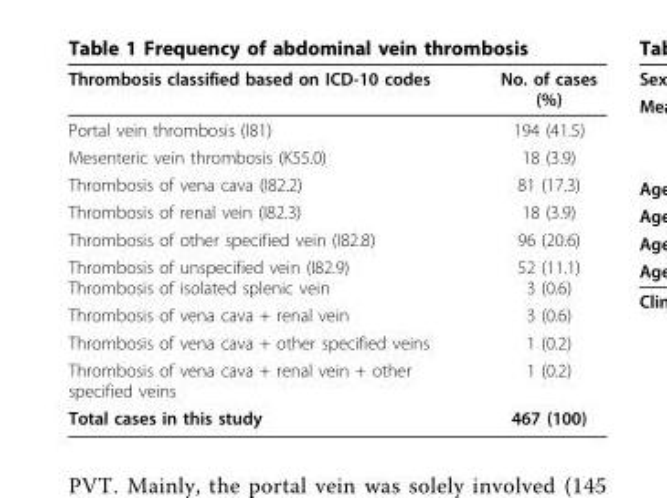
<table><thead><tr><td>Thrombosis classified based on ICD-10 codes</td><td>No. of cases (%)</td></tr></thead><tbody><tr><td>Portal vein thrombosis (I81)</td><td>194 (41.5)</td></tr><tr><td>Mesenteric vein thrombosis (K55.0)</td><td>18 (3.9)</td></tr><tr><td>Thrombosis of vena cava (I82.2)</td><td>81 (17.3)</td></tr><tr><td>Thrombosis of renal vein (I82.3)</td><td>18 (3.9)</td></tr><tr><td>Thrombosis of other specified vein (I82.8)</td><td>96 (20.6)</td></tr><tr><td>Thrombosis of unspecified vein (I82.9) Thrombosis of isolated splenic vein</td><td>52 (11.1) 3 (0.6)</td></tr><tr><td>Thrombosis of vena cava + renal vein</td><td>3 (0.6)</td></tr><tr><td>Thrombosis of vena cava + other specified veins</td><td>1 (0.2)</td></tr><tr><td>Thrombosis of vena cava + renal vein + other specified veins</td><td>1 (0.2)</td></tr><tr><td>Total cases in this study</td><td>467 (100)</td></tr></tbody></table>